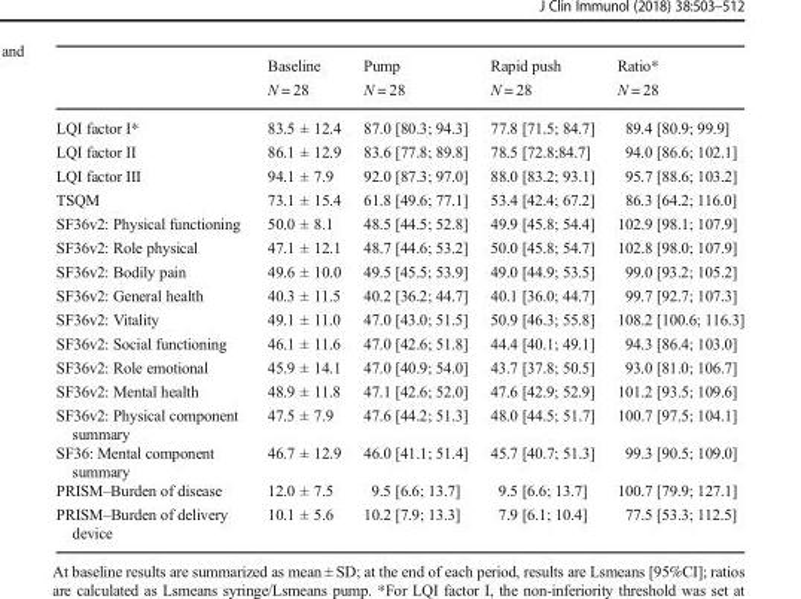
<table><thead><tr><td></td><td>Baseline N = 28</td><td>Pump N = 28</td><td>Rapid push N = 28</td><td>Ratio* N = 28</td></tr></thead><tbody><tr><td>LQI factor I*</td><td>83.5 ± 12.4</td><td>87.0 [80.3; 94.3]</td><td>77.8 [71.5; 84.7]</td><td>89.4 [80.9; 99.9]</td></tr><tr><td>LQI factor II</td><td>86.1 ± 12.9</td><td>83.6 [77.8; 89.8]</td><td>78.5 [72.8;84.7]</td><td>94.0 [86.6; 102.1]</td></tr><tr><td>LQI factor III</td><td>94.1 ± 7.9</td><td>92.0 [87.3; 97.0]</td><td>88.0 [83.2; 93.1]</td><td>95.7 [88.6; 103.2]</td></tr><tr><td>TSQM</td><td>73.1 ± 15.4</td><td>61.8 [49.6; 77.1]</td><td>53.4 [42.4; 67.2]</td><td>86.3 [64.2; 116.0]</td></tr><tr><td>SF36v2: Physical functioning</td><td>50.0 ± 8.1</td><td>48.5 [44.5; 52.8]</td><td>49.9 [45.8; 54.4]</td><td>102.9 [98.1; 107.9]</td></tr><tr><td>SF36v2: Role physical</td><td>47.1 ± 12.1</td><td>48.7 [44.6; 53.2]</td><td>50.0 [45.8; 54.7]</td><td>102.8 [98.0; 107.9]</td></tr><tr><td>SF36v2: Bodily pain</td><td>49.6 ± 10.0</td><td>49.5 [45.5; 53.9]</td><td>49.0 [44.9; 53.5]</td><td>99.0 [93.2; 105.2]</td></tr><tr><td>SF36v2: General health</td><td>40.3 ± 11.5</td><td>40.2 [36.2; 44.7]</td><td>40.1 [36.0; 44.7]</td><td>99.7 [92.7; 107.3]</td></tr><tr><td>SF36v2: Vitality</td><td>49.1 ± 11.0</td><td>47.0 [43.0; 51.5]</td><td>50.9 [46.3; 55.8]</td><td>108.2 [100.6; 116.3]</td></tr><tr><td>SF36v2: Social functioning</td><td>46.1 ± 11.6</td><td>47.0 [42.6; 51.8]</td><td>44.4 [40.1; 49.1]</td><td>94.3 [86.4; 103.0]</td></tr><tr><td>SF36v2: Role emotional</td><td>45.9 ± 14.1</td><td>47.0 [40.9; 54.0]</td><td>43.7 [37.8; 50.5]</td><td>93.0 [81.0; 106.7]</td></tr><tr><td>SF36v2: Mental health</td><td>48.9 ± 11.8</td><td>47.1 [42.6; 52.0]</td><td>47.6 [42.9; 52.9]</td><td>101.2 [93.5; 109.6]</td></tr><tr><td>SF36v2: Physical component summary</td><td>47.5 ± 7.9</td><td>47.6 [44.2; 51.3]</td><td>48.0 [44.5; 51.7]</td><td>100.7 [97.5; 104.1]</td></tr><tr><td>SF36: Mental component summary</td><td>46.7 ± 12.9</td><td>46.0 [41.1; 51.4]</td><td>45.7 [40.7; 51.3]</td><td>99.3 [90.5; 109.0]</td></tr><tr><td>PRISM–Burden of disease</td><td>12.0 ± 7.5</td><td>9.5 [6.6; 13.7]</td><td>9.5 [6.6; 13.7]</td><td>100.7 [79.9; 127.1]</td></tr><tr><td>PRISM–Burden of delivery device</td><td>10.1 ± 5.6</td><td>10.2 [7.9; 13.3]</td><td>7.9 [6.1; 10.4]</td><td>77.5 [53.3; 112.5]</td></tr></tbody></table>